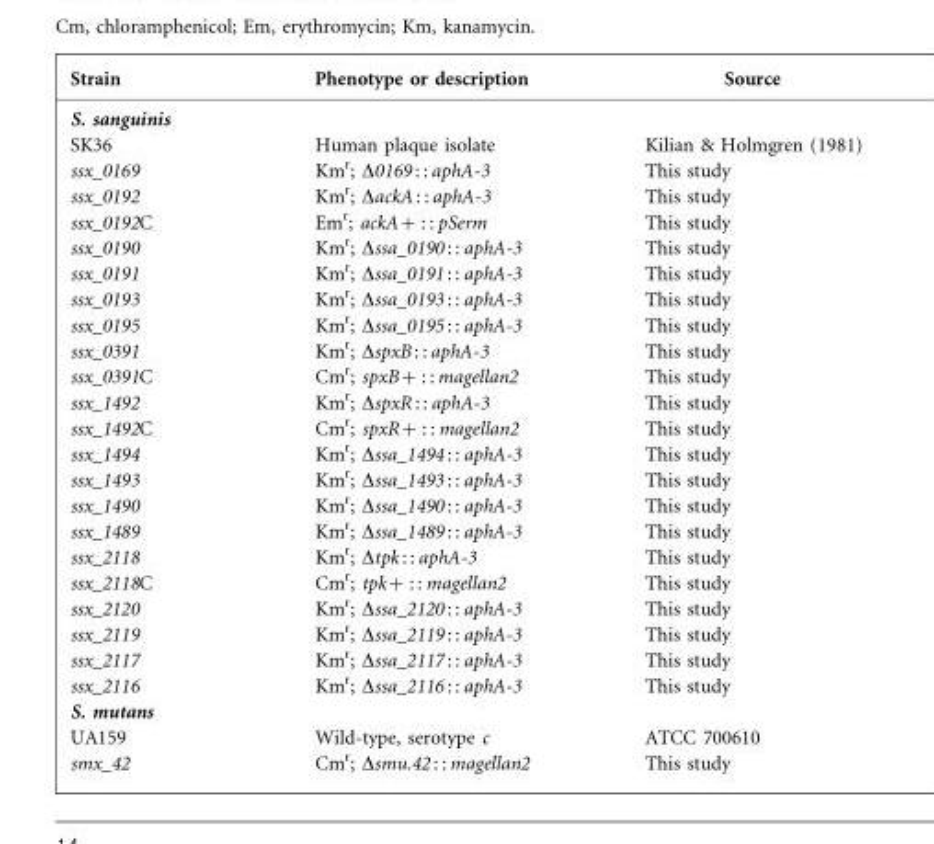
<table><thead><tr><td>Strain</td><td>Phenotype or description</td><td>Source</td></tr></thead><tbody><tr><td colspan="3">S. sanguinis</td></tr><tr><td>SK36</td><td>Human plaque isolate</td><td>Kilian &amp; Holmgren (1981)</td></tr><tr><td>ssx_0169</td><td>Km<sup>r</sup>; Δ0169 : : aphA-3</td><td>This study</td></tr><tr><td>ssx_0192</td><td>Km<sup>r</sup>; ΔackA : : aphA-3</td><td>This study</td></tr><tr><td>ssx_0192C</td><td>Em<sup>r</sup>; ackA+ : : pSerm</td><td>This study</td></tr><tr><td>ssx_0190</td><td>Km<sup>r</sup>; Δssa_0190 : : aphA-3</td><td>This study</td></tr><tr><td>ssx_0191</td><td>Km<sup>r</sup>; Δssa_0191 : : aphA-3</td><td>This study</td></tr><tr><td>ssx_0193</td><td>Km<sup>r</sup>; Δssa_0193 : : aphA-3</td><td>This study</td></tr><tr><td>ssx_0195</td><td>Km<sup>r</sup>; Δssa_0195 : : aphA-3</td><td>This study</td></tr><tr><td>ssx_0391</td><td>Km<sup>r</sup>; ΔspxB : : aphA-3</td><td>This study</td></tr><tr><td>ssx_0391C</td><td>Cm<sup>r</sup>; spxB+ : : magellan2</td><td>This study</td></tr><tr><td>ssx_1492</td><td>Km<sup>r</sup>; ΔspxR : : aphA-3</td><td>This study</td></tr><tr><td>ssx_1492C</td><td>Cm<sup>r</sup>; spxR+ : : magellan2</td><td>This study</td></tr><tr><td>ssx_1494</td><td>Km<sup>r</sup>; Δssa_1494 : : aphA-3</td><td>This study</td></tr><tr><td>ssx_1493</td><td>Km<sup>r</sup>; Δssa_1493 : : aphA-3</td><td>This study</td></tr><tr><td>ssx_1490</td><td>Km<sup>r</sup>; Δssa_1490 : : aphA-3</td><td>This study</td></tr><tr><td>ssx_1489</td><td>Km<sup>r</sup>; Δssa_1489 : : aphA-3</td><td>This study</td></tr><tr><td>ssx_2118</td><td>Km<sup>r</sup>; Δtpk : : aphA-3</td><td>This study</td></tr><tr><td>ssx_2118C</td><td>Cm<sup>r</sup>; tpk+ : : magellan2</td><td>This study</td></tr><tr><td>ssx_2120</td><td>Km<sup>r</sup>; Δssa_2120 : : aphA-3</td><td>This study</td></tr><tr><td>ssx_2119</td><td>Km<sup>r</sup>; Δssa_2119 : : aphA-3</td><td>This study</td></tr><tr><td>ssx_2117</td><td>Km<sup>r</sup>; Δssa_2117 : : aphA-3</td><td>This study</td></tr><tr><td>ssx_2116</td><td>Km<sup>r</sup>; Δssa_2116 : : aphA-3</td><td>This study</td></tr><tr><td colspan="3">S. mutans</td></tr><tr><td>UA159</td><td>Wild-type, serotype c</td><td>ATCC 700610</td></tr><tr><td>smx_42</td><td>Cm<sup>r</sup>; Δsmu.42 : : magellan2</td><td>This study</td></tr></tbody></table>